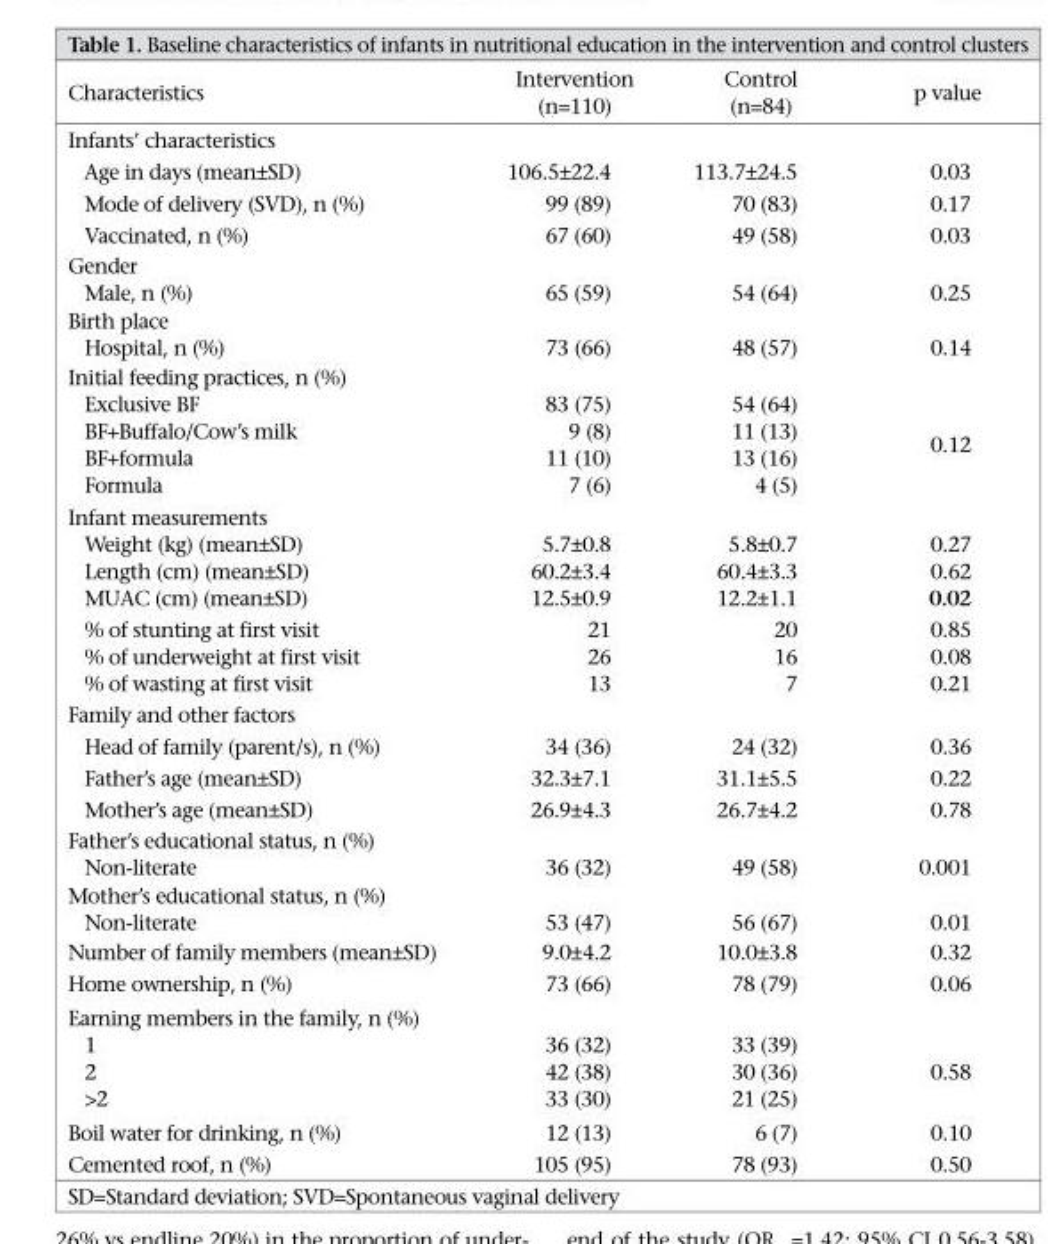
<table><thead><tr><td>Characteristics</td><td>Intervention (n=110)</td><td>Control (n=84)</td><td>p value</td></tr></thead><tbody><tr><td colspan="4">Infants’ characteristics</td></tr><tr><td>Age in days (mean±SD)</td><td>106.5±22.4</td><td>113.7±24.5</td><td>0.03</td></tr><tr><td>Mode of delivery (SVD), n (%)</td><td>99 (89)</td><td>70 (83)</td><td>0.17</td></tr><tr><td>Vaccinated, n (%)</td><td>67 (60)</td><td>49 (58)</td><td>0.03</td></tr><tr><td colspan="4">Gender</td></tr><tr><td>Male, n (%)</td><td>65 (59)</td><td>54 (64)</td><td>0.25</td></tr><tr><td colspan="4">Birth place</td></tr><tr><td>Hospital, n (%)</td><td>73 (66)</td><td>48 (57)</td><td>0.14</td></tr><tr><td colspan="4">Initial feeding practices, n (%)</td></tr><tr><td>Exclusive BF BF+Buffalo/Cow’s milk BF+formula Formula</td><td>83 (75) 9 (8) 11 (10) 7 (6)</td><td>54 (64) 11 (13) 13 (16) 4 (5)</td><td>0.12</td></tr><tr><td colspan="4">Infant measurements</td></tr><tr><td>Weight (kg) (mean±SD) Length (cm) (mean±SD) MUAC (cm) (mean±SD)</td><td>5.7±0.8 60.2±3.4 12.5±0.9</td><td>5.8±0.7 60.4±3.3 12.2±1.1</td><td>0.27 0.62 0.02</td></tr><tr><td>% of stunting at first visit % of underweight at first visit % of wasting at first visit</td><td>21 26 13</td><td>20 16 7</td><td>0.85 0.08 0.21</td></tr><tr><td colspan="4">Family and other factors</td></tr><tr><td>Head of family (parent/s), n (%)</td><td>34 (36)</td><td>24 (32)</td><td>0.36</td></tr><tr><td>Father’s age (mean±SD)</td><td>32.3±7.1</td><td>31.1±5.5</td><td>0.22</td></tr><tr><td>Mother’s age (mean±SD)</td><td>26.9±4.3</td><td>26.7±4.2</td><td>0.78</td></tr><tr><td colspan="4">Father’s educational status, n (%)</td></tr><tr><td>Non-literate</td><td>36 (32)</td><td>49 (58)</td><td>0.001</td></tr><tr><td colspan="4">Mother’s educational status, n (%)</td></tr><tr><td>Non-literate</td><td>53 (47)</td><td>56 (67)</td><td>0.01</td></tr><tr><td>Number of family members (mean±SD)</td><td>9.0±4.2</td><td>10.0±3.8</td><td>0.32</td></tr><tr><td>Home ownership, n (%)</td><td>73 (66)</td><td>78 (79)</td><td>0.06</td></tr><tr><td colspan="4">Earning members in the family, n (%)</td></tr><tr><td>1 2 &gt;2</td><td>36 (32) 42 (38) 33 (30)</td><td>33 (39) 30 (36) 21 (25)</td><td>0.58</td></tr><tr><td>Boil water for drinking, n (%)</td><td>12 (13)</td><td>6 (7)</td><td>0.10</td></tr><tr><td>Cemented roof, n (%)</td><td>105 (95)</td><td>78 (93)</td><td>0.50</td></tr></tbody></table>